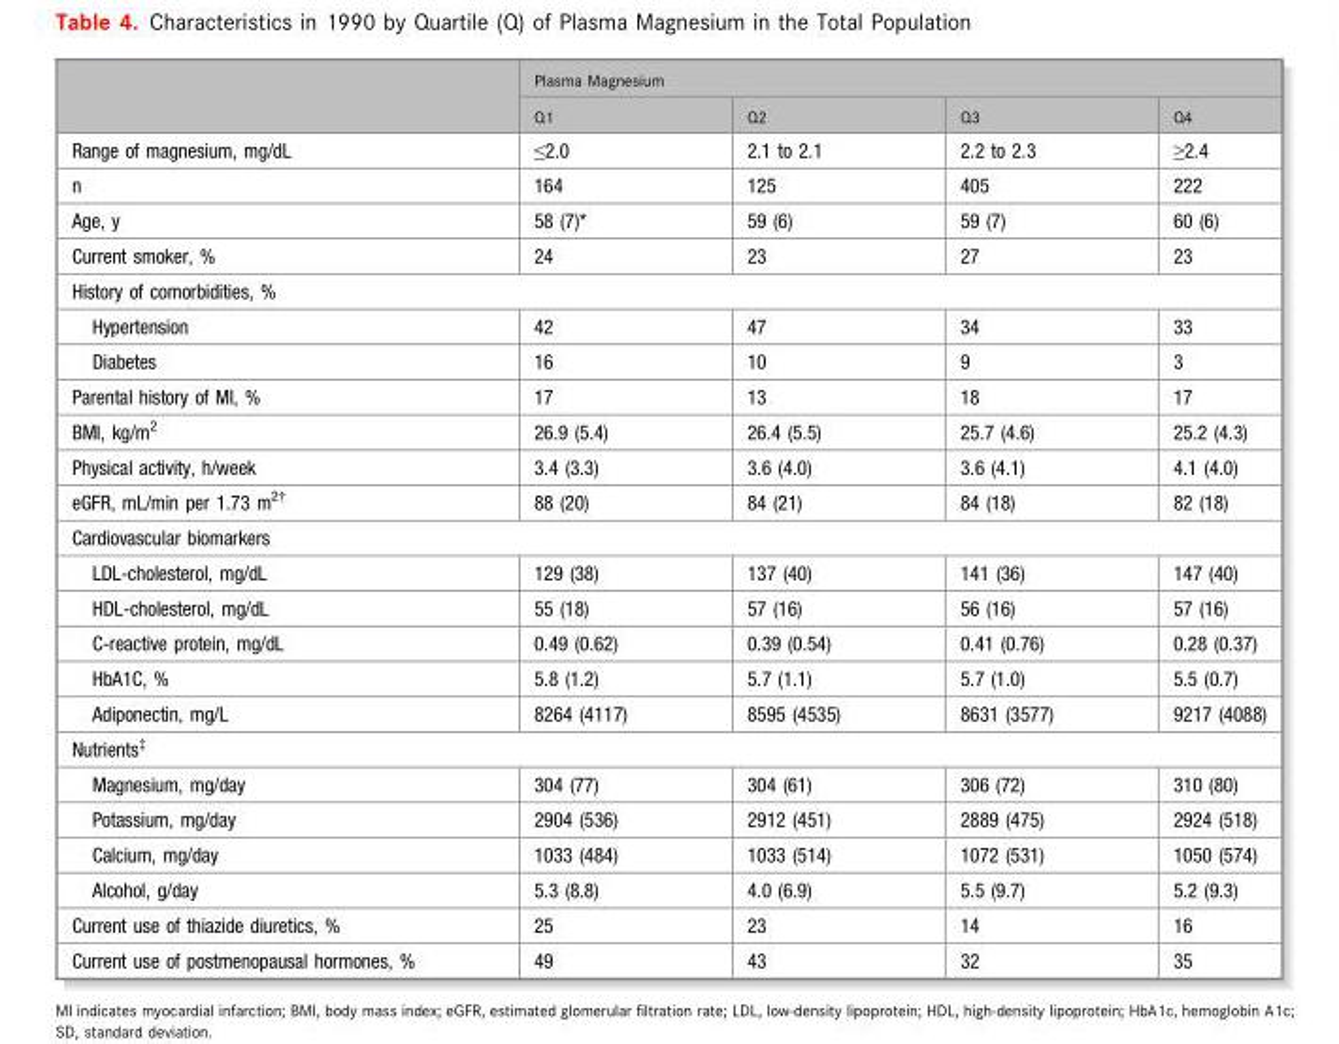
<table><thead><tr><td rowspan="2"></td><td colspan="4">Plasma Magnesium</td></tr><tr><td>Q1</td><td>Q2</td><td>Q3</td><td>Q4</td></tr></thead><tbody><tr><td>Range of magnesium, mg/dL</td><td>≤2.0</td><td>2.1 to 2.1</td><td>2.2 to 2.3</td><td>≥2.4</td></tr><tr><td>n</td><td>164</td><td>125</td><td>405</td><td>222</td></tr><tr><td>Age, y</td><td>58 (7)*</td><td>59 (6)</td><td>59 (7)</td><td>60 (6)</td></tr><tr><td>Current smoker, %</td><td>24</td><td>23</td><td>27</td><td>23</td></tr><tr><td colspan="5">History of comorbidities, %</td></tr><tr><td>Hypertension</td><td>42</td><td>47</td><td>34</td><td>33</td></tr><tr><td>Diabetes</td><td>16</td><td>10</td><td>9</td><td>3</td></tr><tr><td>Parental history of MI, %</td><td>17</td><td>13</td><td>18</td><td>17</td></tr><tr><td>BMI, kg/m<sup>2</sup></td><td>26.9 (5.4)</td><td>26.4 (5.5)</td><td>25.7 (4.6)</td><td>25.2 (4.3)</td></tr><tr><td>Physical activity, h/week</td><td>3.4 (3.3)</td><td>3.6 (4.0)</td><td>3.6 (4.1)</td><td>4.1 (4.0)</td></tr><tr><td>eGFR, mL/min per 1.73 m2†</td><td>88 (20)</td><td>84 (21)</td><td>84 (18)</td><td>82 (18)</td></tr><tr><td colspan="5">Cardiovascular biomarkers</td></tr><tr><td>LDL-cholesterol, mg/dL</td><td>129 (38)</td><td>137 (40)</td><td>141 (36)</td><td>147 (40)</td></tr><tr><td>HDL-cholesterol, mg/dL</td><td>55 (18)</td><td>57 (16)</td><td>56 (16)</td><td>57 (16)</td></tr><tr><td>C-reactive protein, mg/dL</td><td>0.49 (0.62)</td><td>0.39 (0.54)</td><td>0.41 (0.76)</td><td>0.28 (0.37)</td></tr><tr><td>HbA1C, %</td><td>5.8 (1.2)</td><td>5.7 (1.1)</td><td>5.7 (1.0)</td><td>5.5 (0.7)</td></tr><tr><td>Adiponectin, mg/L</td><td>8264 (4117)</td><td>8595 (4535)</td><td>8631 (3577)</td><td>9217 (4088)</td></tr><tr><td colspan="5">Nutrients‡</td></tr><tr><td>Magnesium, mg/day</td><td>304 (77)</td><td>304 (61)</td><td>306 (72)</td><td>310 (80)</td></tr><tr><td>Potassium, mg/day</td><td>2904 (536)</td><td>2912 (451)</td><td>2889 (475)</td><td>2924 (518)</td></tr><tr><td>Calcium, mg/day</td><td>1033 (484)</td><td>1033 (514)</td><td>1072 (531)</td><td>1050 (574)</td></tr><tr><td>Alcohol, g/day</td><td>5.3 (8.8)</td><td>4.0 (6.9)</td><td>5.5 (9.7)</td><td>5.2 (9.3)</td></tr><tr><td>Current use of thiazide diuretics, %</td><td>25</td><td>23</td><td>14</td><td>16</td></tr><tr><td>Current use of postmenopausal hormones, %</td><td>49</td><td>43</td><td>32</td><td>35</td></tr></tbody></table>